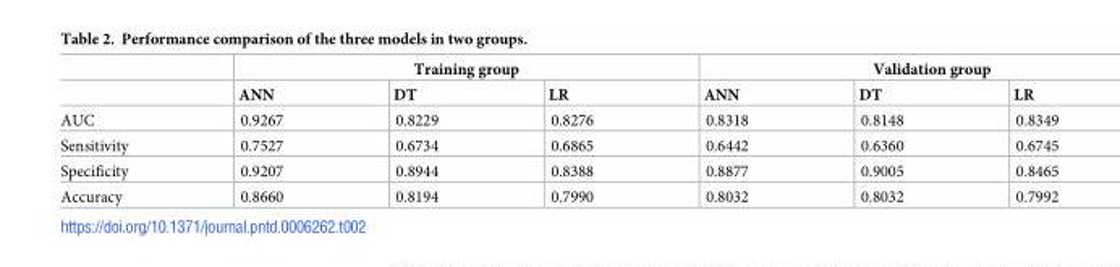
<table><thead><tr><td rowspan="2"></td><td colspan="3">Training group</td><td colspan="3">Validation group</td></tr><tr><td>ANN</td><td>DT</td><td>LR</td><td>ANN</td><td>DT</td><td>LR</td></tr></thead><tbody><tr><td>AUC</td><td>0.9267</td><td>0.8229</td><td>0.8276</td><td>0.8318</td><td>0.8148</td><td>0.8349</td></tr><tr><td>Sensitivity</td><td>0.7527</td><td>0.6734</td><td>0.6865</td><td>0.6442</td><td>0.6360</td><td>0.6745</td></tr><tr><td>Specificity</td><td>0.9207</td><td>0.8944</td><td>0.8388</td><td>0.8877</td><td>0.9005</td><td>0.8465</td></tr><tr><td>Accuracy</td><td>0.8660</td><td>0.8194</td><td>0.7990</td><td>0.8032</td><td>0.8032</td><td>0.7992</td></tr></tbody></table>